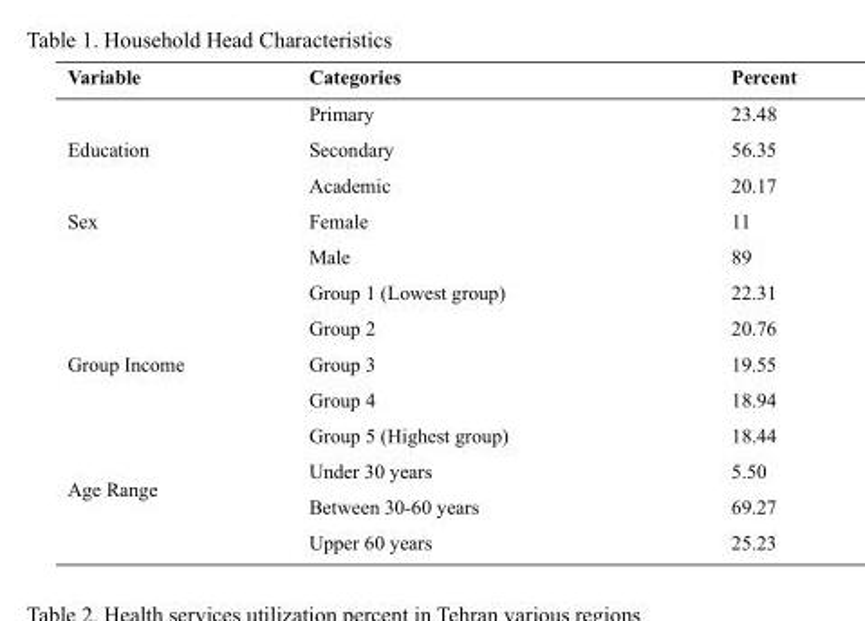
<table><thead><tr><td>Variable</td><td>Categories</td><td>Percent</td></tr></thead><tbody><tr><td rowspan="3">Education</td><td>Primary</td><td>23.48</td></tr><tr><td>Secondary</td><td>56.35</td></tr><tr><td>Academic</td><td>20.17</td></tr><tr><td rowspan="2">Sex</td><td>Female</td><td>11</td></tr><tr><td>Male</td><td>89</td></tr><tr><td rowspan="5">Group Income</td><td>Group 1 (Lowest group)</td><td>22.31</td></tr><tr><td>Group 2</td><td>20.76</td></tr><tr><td>Group 3</td><td>19.55</td></tr><tr><td>Group 4</td><td>18.94</td></tr><tr><td>Group 5 (Highest group)</td><td>18.44</td></tr><tr><td rowspan="3">Age Range</td><td>Under 30 years</td><td>5.50</td></tr><tr><td>Between 30-60 years</td><td>69.27</td></tr><tr><td>Upper 60 years</td><td>25.23</td></tr></tbody></table>